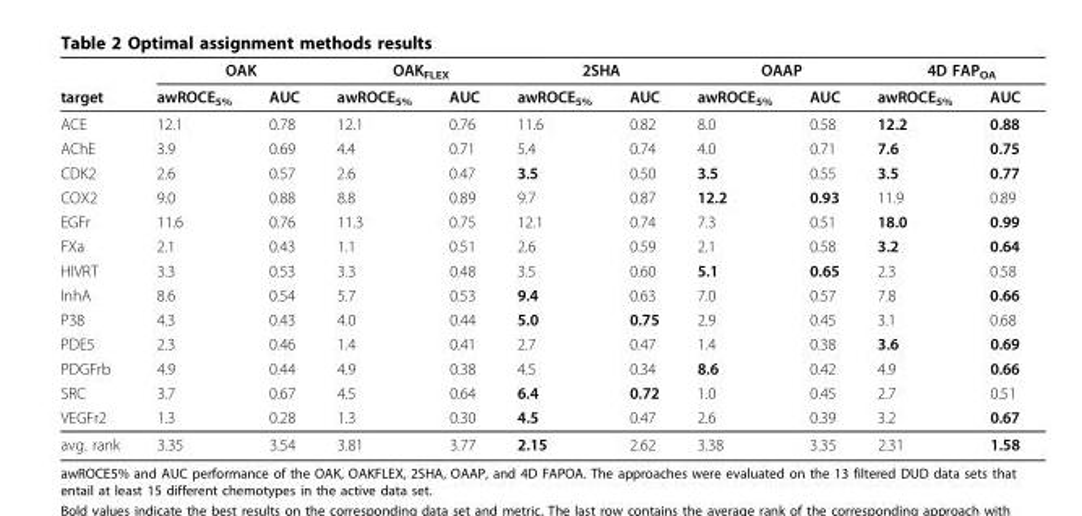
<table><thead><tr><td rowspan="2">target</td><td colspan="2">OAK</td><td colspan="2">OAK<sub>FLEX</sub></td><td colspan="2">2SHA</td><td colspan="2">OAAP</td><td colspan="2">4D FAP<sub>OA</sub></td></tr><tr><td>awROCE<sub>5%</sub></td><td>AUC</td><td>awROCE<sub>5%</sub></td><td>AUC</td><td>awROCE<sub>5%</sub></td><td>AUC</td><td>awROCE<sub>5%</sub></td><td>AUC</td><td>awROCE<sub>5%</sub></td><td>AUC</td></tr></thead><tbody><tr><td>ACE</td><td>12.1</td><td>0.78</td><td>12.1</td><td>0.76</td><td>11.6</td><td>0.82</td><td>8.0</td><td>0.58</td><td>12.2</td><td>0.88</td></tr><tr><td>AChE</td><td>3.9</td><td>0.69</td><td>4.4</td><td>0.71</td><td>5.4</td><td>0.74</td><td>4.0</td><td>0.71</td><td>7.6</td><td>0.75</td></tr><tr><td>CDK2</td><td>2.6</td><td>0.57</td><td>2.6</td><td>0.47</td><td>3.5</td><td>0.50</td><td>3.5</td><td>0.55</td><td>3.5</td><td>0.77</td></tr><tr><td>COX2</td><td>9.0</td><td>0.88</td><td>8.8</td><td>0.89</td><td>9.7</td><td>0.87</td><td>12.2</td><td>0.93</td><td>11.9</td><td>0.89</td></tr><tr><td>EGFr</td><td>11.6</td><td>0.76</td><td>11.3</td><td>0.75</td><td>12.1</td><td>0.74</td><td>7.3</td><td>0.51</td><td>18.0</td><td>0.99</td></tr><tr><td>FXa</td><td>2.1</td><td>0.43</td><td>1.1</td><td>0.51</td><td>2.6</td><td>0.59</td><td>2.1</td><td>0.58</td><td>3.2</td><td>0.64</td></tr><tr><td>HIVRT</td><td>3.3</td><td>0.53</td><td>3.3</td><td>0.48</td><td>3.5</td><td>0.60</td><td>5.1</td><td>0.65</td><td>2.3</td><td>0.58</td></tr><tr><td>InhA</td><td>8.6</td><td>0.54</td><td>5.7</td><td>0.53</td><td>9.4</td><td>0.63</td><td>7.0</td><td>0.57</td><td>7.8</td><td>0.66</td></tr><tr><td>P38</td><td>4.3</td><td>0.43</td><td>4.0</td><td>0.44</td><td>5.0</td><td>0.75</td><td>2.9</td><td>0.45</td><td>3.1</td><td>0.68</td></tr><tr><td>PDE5</td><td>2.3</td><td>0.46</td><td>1.4</td><td>0.41</td><td>2.7</td><td>0.47</td><td>1.4</td><td>0.38</td><td>3.6</td><td>0.69</td></tr><tr><td>PDGFrb</td><td>4.9</td><td>0.44</td><td>4.9</td><td>0.38</td><td>4.5</td><td>0.34</td><td>8.6</td><td>0.42</td><td>4.9</td><td>0.66</td></tr><tr><td>SRC</td><td>3.7</td><td>0.67</td><td>4.5</td><td>0.64</td><td>6.4</td><td>0.72</td><td>1.0</td><td>0.45</td><td>2.7</td><td>0.51</td></tr><tr><td>VEGFr2</td><td>1.3</td><td>0.28</td><td>1.3</td><td>0.30</td><td>4.5</td><td>0.47</td><td>2.6</td><td>0.39</td><td>3.2</td><td>0.67</td></tr><tr><td>avg. rank</td><td>3.35</td><td>3.54</td><td>3.81</td><td>3.77</td><td>2.15</td><td>2.62</td><td>3.38</td><td>3.35</td><td>2.31</td><td>1.58</td></tr></tbody></table>